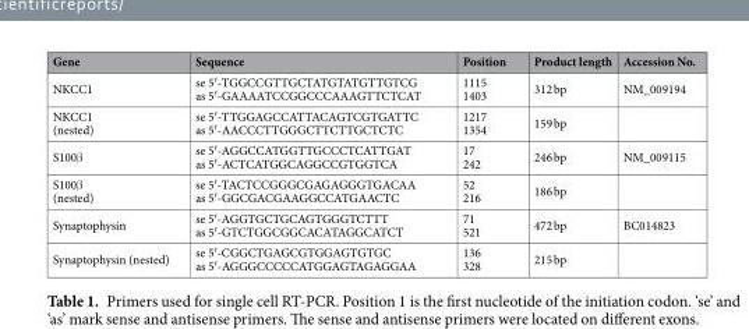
<table><thead><tr><td>Gene</td><td>Sequence</td><td>Position</td><td>Product length</td><td>Accession No.</td></tr></thead><tbody><tr><td>NKCC1</td><td>se 5′-TGGCCGTTGCTATGTATGTTGTCG as 5′-GAAAATCCGGCCCAAAGTTCTCAT</td><td>1115 1403</td><td>312 bp</td><td>NM_009194</td></tr><tr><td>NKCC1 (nested)</td><td>se 5′-TTGGAGCCATTACAGTCGTGATTC as 5′-AACCCTTGGGCTTCTTGCTCTC</td><td>1217 1354</td><td>159 bp</td><td></td></tr><tr><td>S100β</td><td>se 5′-AGGCCATGGTTGCCCTCATTGAT as 5′-ACTCATGGCAGGCCGTGGTCA</td><td>17 242</td><td>246 bp</td><td>NM_009115</td></tr><tr><td>S100β (nested)</td><td>se 5′-TACTCCGGGCGAGAGGGTGACAA as 5′-GGCGACGAAGGCCATGAACTC</td><td>52 216</td><td>186 bp</td><td></td></tr><tr><td>Synaptophysin</td><td>se 5′-AGGTGCTGCAGTGGGTCTTT as 5′-GTCTGGCGGCACATAGGCATCT</td><td>71 521</td><td>472 bp</td><td>BC014823</td></tr><tr><td>Synaptophysin (nested)</td><td>se 5′-CGGCTGAGCGTGGAGTGTGC as 5′-AGGGCCCCCATGGAGTAGAGGAA</td><td>136 328</td><td>215 bp</td><td></td></tr></tbody></table>